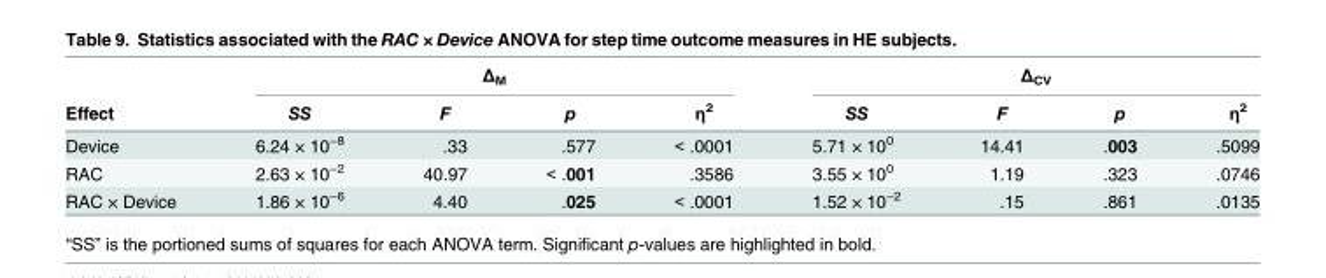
<table><thead><tr><td rowspan="2">Effect</td><td colspan="4">Δ<sub>M</sub></td><td colspan="4">Δ<sub>CV</sub></td></tr><tr><td>SS</td><td>F</td><td>p</td><td>η<sup>2</sup></td><td>SS</td><td>F</td><td>p</td><td>η<sup>2</sup></td></tr></thead><tbody><tr><td>Device</td><td>6.24 × 10<sup>−8</sup></td><td>.33</td><td>.577</td><td>&lt; .0001</td><td>5.71 × 10<sup>0</sup></td><td>14.41</td><td>.003</td><td>.5099</td></tr><tr><td>RAC</td><td>2.63 × 10<sup>−2</sup></td><td>40.97</td><td>&lt; .001</td><td>.3586</td><td>3.55 × 10<sup>0</sup></td><td>1.19</td><td>.323</td><td>.0746</td></tr><tr><td>RAC × Device</td><td>1.86 × 10<sup>−6</sup></td><td>4.40</td><td>.025</td><td>&lt; .0001</td><td>1.52 × 10<sup>−2</sup></td><td>.15</td><td>.861</td><td>.0135</td></tr></tbody></table>